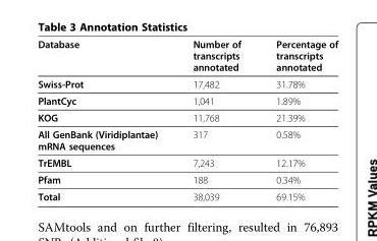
<table><thead><tr><td>Database</td><td>Number of transcripts annotated</td><td>Percentage of transcripts annotated</td></tr></thead><tbody><tr><td>Swiss-Prot</td><td>17,482</td><td>31.78%</td></tr><tr><td>PlantCyc</td><td>1,041</td><td>1.89%</td></tr><tr><td>KOG</td><td>11,768</td><td>21.39%</td></tr><tr><td>All GenBank (Viridiplantae) mRNA sequences</td><td>317</td><td>0.58%</td></tr><tr><td>TrEMBL</td><td>7,243</td><td>12.17%</td></tr><tr><td>Pfam</td><td>188</td><td>0.34%</td></tr><tr><td>Total</td><td>38,039</td><td>69.15%</td></tr></tbody></table>